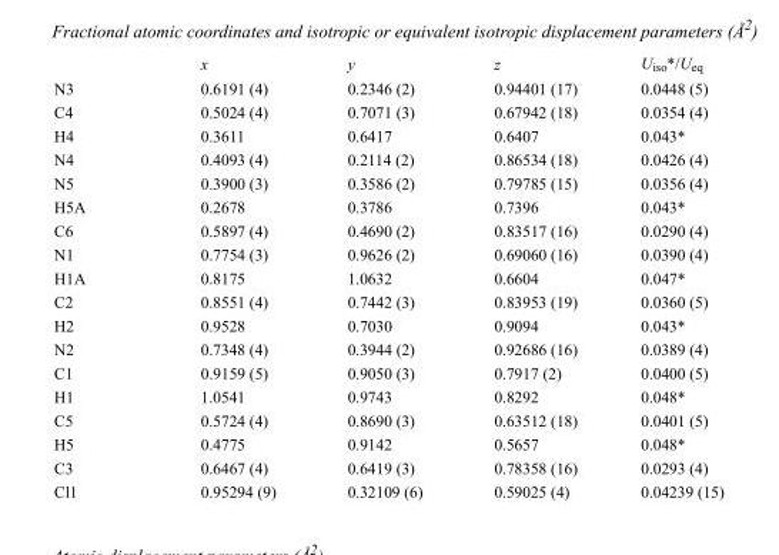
<table><thead><tr><td></td><td>x</td><td>y</td><td>z</td><td>U<sub>iso</sub>*/U<sub>eq</sub></td></tr></thead><tbody><tr><td>N3</td><td>0.6191 (4)</td><td>0.2346 (2)</td><td>0.94401 (17)</td><td>0.0448 (5)</td></tr><tr><td>C4</td><td>0.5024 (4)</td><td>0.7071 (3)</td><td>0.67942 (18)</td><td>0.0354 (4)</td></tr><tr><td>H4</td><td>0.3611</td><td>0.6417</td><td>0.6407</td><td>0.043*</td></tr><tr><td>N4</td><td>0.4093 (4)</td><td>0.2114 (2)</td><td>0.86534 (18)</td><td>0.0426 (4)</td></tr><tr><td>N5</td><td>0.3900 (3)</td><td>0.3586 (2)</td><td>0.79785 (15)</td><td>0.0356 (4)</td></tr><tr><td>H5A</td><td>0.2678</td><td>0.3786</td><td>0.7396</td><td>0.043*</td></tr><tr><td>C6</td><td>0.5897 (4)</td><td>0.4690 (2)</td><td>0.83517 (16)</td><td>0.0290 (4)</td></tr><tr><td>N1</td><td>0.7754 (3)</td><td>0.9626 (2)</td><td>0.69060 (16)</td><td>0.0390 (4)</td></tr><tr><td>H1A</td><td>0.8175</td><td>1.0632</td><td>0.6604</td><td>0.047*</td></tr><tr><td>C2</td><td>0.8551 (4)</td><td>0.7442 (3)</td><td>0.83953 (19)</td><td>0.0360 (5)</td></tr><tr><td>H2</td><td>0.9528</td><td>0.7030</td><td>0.9094</td><td>0.043*</td></tr><tr><td>N2</td><td>0.7348 (4)</td><td>0.3944 (2)</td><td>0.92686 (16)</td><td>0.0389 (4)</td></tr><tr><td>C1</td><td>0.9159 (5)</td><td>0.9050 (3)</td><td>0.7917 (2)</td><td>0.0400 (5)</td></tr><tr><td>H1</td><td>1.0541</td><td>0.9743</td><td>0.8292</td><td>0.048*</td></tr><tr><td>C5</td><td>0.5724 (4)</td><td>0.8690 (3)</td><td>0.63512 (18)</td><td>0.0401 (5)</td></tr><tr><td>H5</td><td>0.4775</td><td>0.9142</td><td>0.5657</td><td>0.048*</td></tr><tr><td>C3</td><td>0.6467 (4)</td><td>0.6419 (3)</td><td>0.78358 (16)</td><td>0.0293 (4)</td></tr><tr><td>Cl1</td><td>0.95294 (9)</td><td>0.32109 (6)</td><td>0.59025 (4)</td><td>0.04239 (15)</td></tr></tbody></table>